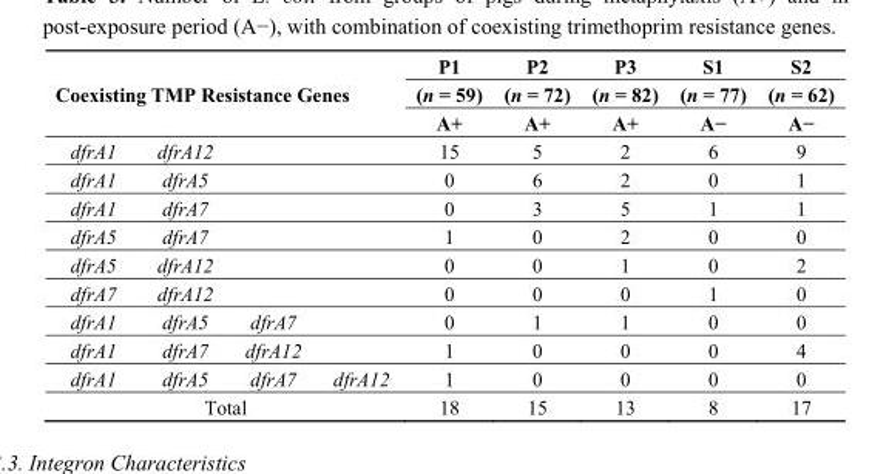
<table><thead><tr><td rowspan="3" colspan="4">Coexisting TMP Resistance Genes</td><td rowspan="4">P1 (n = 59) A+ 15</td><td rowspan="4">P2 (n = 72) A+ 5</td><td rowspan="4">P3 (n = 82) A+ 2</td><td rowspan="4">S1 (n = 77) A− 6</td><td rowspan="4">S2 (n = 62) A− 9</td></tr><tr></tr><tr></tr><tr><td>dfrA1</td><td>dfrA12</td><td></td><td></td></tr></thead><tbody><tr><td>dfrA1</td><td>dfrA5</td><td></td><td></td><td>0</td><td>6</td><td>2</td><td>0</td><td>1</td></tr><tr><td>dfrA1</td><td>dfrA7</td><td></td><td></td><td>0</td><td>3</td><td>5</td><td>1</td><td>1</td></tr><tr><td>dfrA5</td><td>dfrA7</td><td></td><td></td><td>1</td><td>0</td><td>2</td><td>0</td><td>0</td></tr><tr><td>dfrA5</td><td>dfrA12</td><td></td><td></td><td>0</td><td>0</td><td>1</td><td>0</td><td>2</td></tr><tr><td>dfrA7</td><td>dfrA12</td><td></td><td></td><td>0</td><td>0</td><td>0</td><td>1</td><td>0</td></tr><tr><td>dfrA1</td><td>dfrA5</td><td>dfrA7</td><td></td><td>0</td><td>1</td><td>1</td><td>0</td><td>0</td></tr><tr><td>dfrA1</td><td>dfrA7</td><td>dfrA12</td><td></td><td>1</td><td>0</td><td>0</td><td>0</td><td>4</td></tr><tr><td>dfrA1</td><td>dfrA5</td><td>dfrA7</td><td>dfrA12</td><td>1</td><td>0</td><td>0</td><td>0</td><td>0</td></tr><tr><td colspan="4">Total</td><td>18</td><td>15</td><td>13</td><td>8</td><td>17</td></tr></tbody></table>